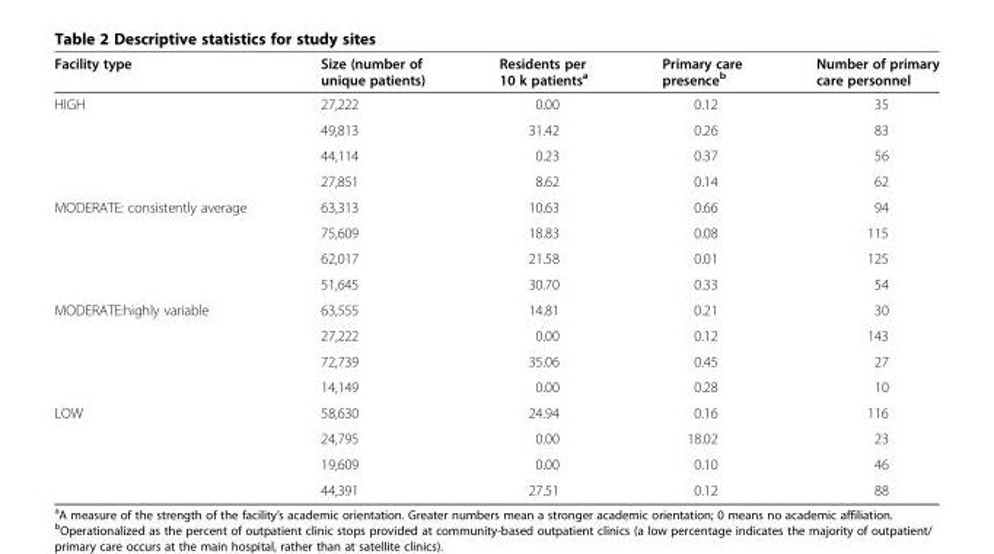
<table><thead><tr><td>Facility type</td><td>Size (number of unique patients)</td><td>Residents per 10 k patients<sup>a</sup></td><td>Primary care presence<sup>b</sup></td><td>Number of primary care personnel</td></tr></thead><tbody><tr><td rowspan="4">HIGH</td><td>27,222</td><td>0.00</td><td>0.12</td><td>35</td></tr><tr><td>49,813</td><td>31.42</td><td>0.26</td><td>83</td></tr><tr><td>44,114</td><td>0.23</td><td>0.37</td><td>56</td></tr><tr><td>27,851</td><td>8.62</td><td>0.14</td><td>62</td></tr><tr><td rowspan="4">MODERATE: consistently average</td><td>63,313</td><td>10.63</td><td>0.66</td><td>94</td></tr><tr><td>75,609</td><td>18.83</td><td>0.08</td><td>115</td></tr><tr><td>62,017</td><td>21.58</td><td>0.01</td><td>125</td></tr><tr><td>51,645</td><td>30.70</td><td>0.33</td><td>54</td></tr><tr><td rowspan="4">MODERATE:highly variable</td><td>63,555</td><td>14.81</td><td>0.21</td><td>30</td></tr><tr><td>27,222</td><td>0.00</td><td>0.12</td><td>143</td></tr><tr><td>72,739</td><td>35.06</td><td>0.45</td><td>27</td></tr><tr><td>14,149</td><td>0.00</td><td>0.28</td><td>10</td></tr><tr><td rowspan="4">LOW</td><td>58,630</td><td>24.94</td><td>0.16</td><td>116</td></tr><tr><td>24,795</td><td>0.00</td><td>18.02</td><td>23</td></tr><tr><td>19,609</td><td>0.00</td><td>0.10</td><td>46</td></tr><tr><td>44,391</td><td>27.51</td><td>0.12</td><td>88</td></tr></tbody></table>